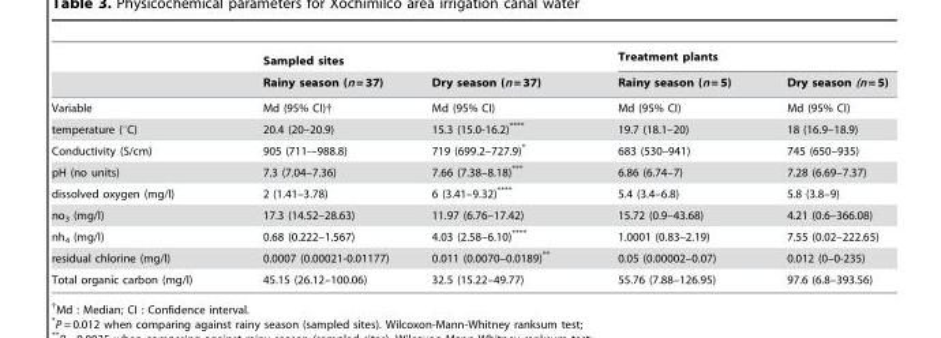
<table><thead><tr><td rowspan="2"></td><td colspan="2">Sampled sites</td><td colspan="2">Treatment plants</td></tr><tr><td>Rainy season (n = 37)</td><td>Dry season (n = 37)</td><td>Rainy season (n = 5)</td><td>Dry season (n = 5)</td></tr></thead><tbody><tr><td>Variable</td><td>Md (95% CI)†</td><td>Md (95% CI)</td><td>Md (95% CI)</td><td>Md (95% CI)</td></tr><tr><td>temperature (°C)</td><td>20.4 (20–20.9)</td><td>15.3 (15.0-16.2)****</td><td>19.7 (18.1–20)</td><td>18 (16.9–18.9)</td></tr><tr><td>Conductivity (S/cm)</td><td>905 (711-–988.8)</td><td>719 (699.2–727.9)*</td><td>683 (530–941)</td><td>745 (650–935)</td></tr><tr><td>pH (no units)</td><td>7.3 (7.04–7.36)</td><td>7.66 (7.38–8.18)***</td><td>6.86 (6.74–7)</td><td>7.28 (6.69–7.37)</td></tr><tr><td>dissolved oxygen (mg/l)</td><td>2 (1.41–3.78)</td><td>6 (3.41–9.32)****</td><td>5.4 (3.4–6.8)</td><td>5.8 (3.8–9)</td></tr><tr><td>no<sub>3</sub> (mg/l)</td><td>17.3 (14.52–28.63)</td><td>11.97 (6.76–17.42)</td><td>15.72 (0.9–43.68)</td><td>4.21 (0.6–366.08)</td></tr><tr><td>nh<sub>4</sub> (mg/l)</td><td>0.68 (0.222–1.567)</td><td>4.03 (2.58–6.10)****</td><td>1.0001 (0.83–2.19)</td><td>7.55 (0.02–222.65)</td></tr><tr><td>residual chlorine (mg/l)</td><td>0.0007 (0.00021-0.01177)</td><td>0.011 (0.0070–0.0189)**</td><td>0.05 (0.00002–0.07)</td><td>0.012 (0–0-235)</td></tr><tr><td>Total organic carbon (mg/l)</td><td>45.15 (26.12–100.06)</td><td>32.5 (15.22–49.77)</td><td>55.76 (7.88–126.95)</td><td>97.6 (6.8–393.56)</td></tr></tbody></table>